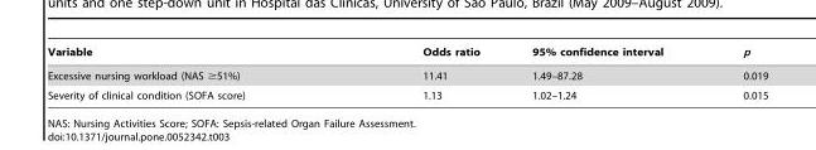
<table><thead><tr><td>Variable</td><td>Odds ratio</td><td>95% confidence interval</td><td>p</td></tr></thead><tbody><tr><td>Excessive nursing workload (NAS ≥51%)</td><td>11.41</td><td>1.49–87.28</td><td>0.019</td></tr><tr><td>Severity of clinical condition (SOFA score)</td><td>1.13</td><td>1.02–1.24</td><td>0.015</td></tr></tbody></table>